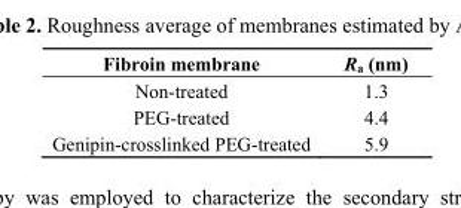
<table><thead><tr><td>Fibroin membrane</td><td>R<sub>a</sub> (nm)</td></tr></thead><tbody><tr><td>Non-treated</td><td>1.3</td></tr><tr><td>PEG-treated</td><td>4.4</td></tr><tr><td>Genipin-crosslinked PEG-treated</td><td>5.9</td></tr></tbody></table>